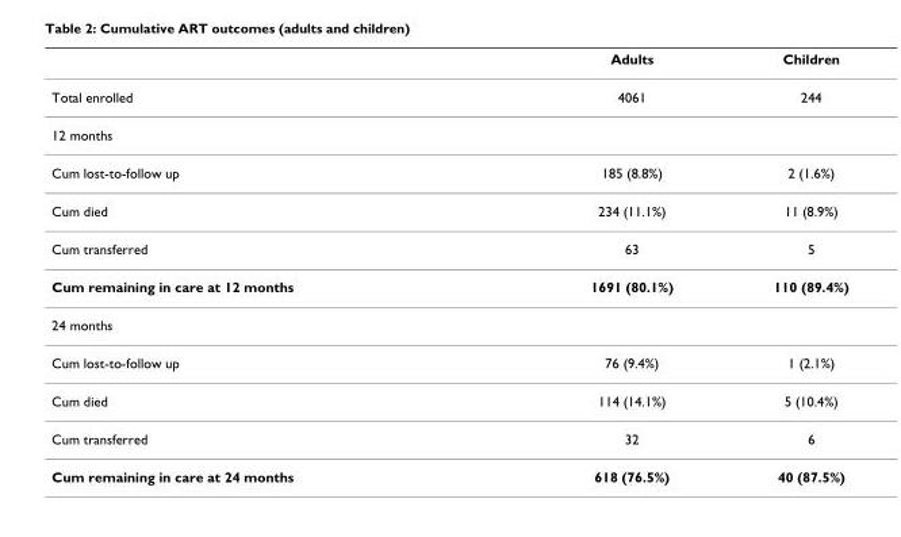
<table><thead><tr><td></td><td>Adults</td><td>Children</td></tr></thead><tbody><tr><td>Total enrolled</td><td>4061</td><td>244</td></tr><tr><td colspan="3">12 months</td></tr><tr><td>Cum lost-to-follow up</td><td>185 (8.8%)</td><td>2 (1.6%)</td></tr><tr><td>Cum died</td><td>234 (11.1%)</td><td>11 (8.9%)</td></tr><tr><td>Cum transferred</td><td>63</td><td>5</td></tr><tr><td>Cum remaining in care at 12 months</td><td>1691 (80.1%)</td><td>110 (89.4%)</td></tr><tr><td colspan="3">24 months</td></tr><tr><td>Cum lost-to-follow up</td><td>76 (9.4%)</td><td>1 (2.1%)</td></tr><tr><td>Cum died</td><td>114 (14.1%)</td><td>5 (10.4%)</td></tr><tr><td>Cum transferred</td><td>32</td><td>6</td></tr><tr><td>Cum remaining in care at 24 months</td><td>618 (76.5%)</td><td>40 (87.5%)</td></tr></tbody></table>